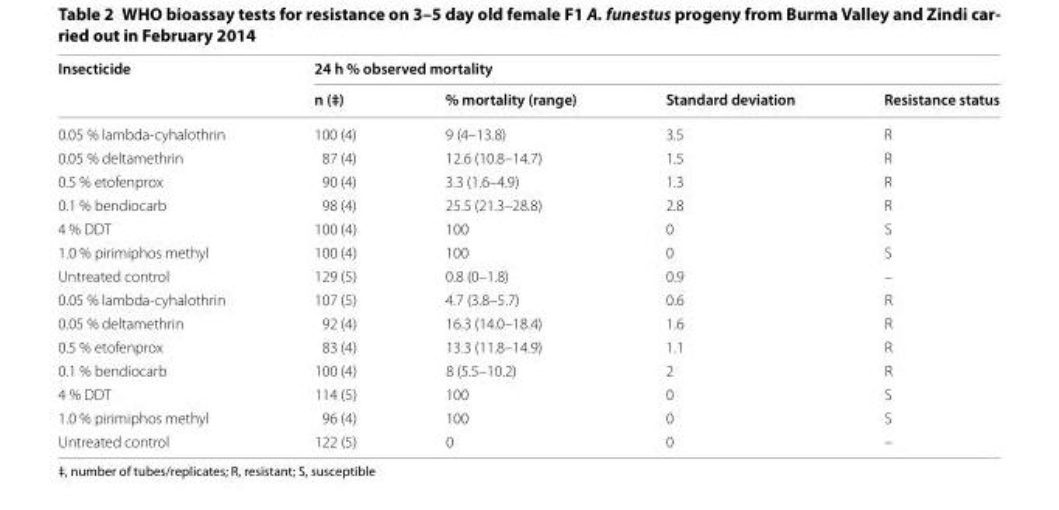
<table><thead><tr><td rowspan="2">Insecticide</td><td colspan="4">24 h % observed mortality</td></tr><tr><td>n (‡)</td><td>% mortality (range)</td><td>Standard deviation</td><td>Resistance status</td></tr></thead><tbody><tr><td>0.05 % lambda-cyhalothrin</td><td>100 (4)</td><td>9 (4–13.8)</td><td>3.5</td><td>R</td></tr><tr><td>0.05 % deltamethrin</td><td>87 (4)</td><td>12.6 (10.8–14.7)</td><td>1.5</td><td>R</td></tr><tr><td>0.5 % etofenprox</td><td>90 (4)</td><td>3.3 (1.6–4.9)</td><td>1.3</td><td>R</td></tr><tr><td>0.1 % bendiocarb</td><td>98 (4)</td><td>25.5 (21.3–28.8)</td><td>2.8</td><td>R</td></tr><tr><td>4 % DDT</td><td>100 (4)</td><td>100</td><td>0</td><td>S</td></tr><tr><td>1.0 % pirimiphos methyl</td><td>100 (4)</td><td>100</td><td>0</td><td>S</td></tr><tr><td>Untreated control</td><td>129 (5)</td><td>0.8 (0–1.8)</td><td>0.9</td><td>–</td></tr><tr><td>0.05 % lambda-cyhalothrin</td><td>107 (5)</td><td>4.7 (3.8–5.7)</td><td>0.6</td><td>R</td></tr><tr><td>0.05 % deltamethrin</td><td>92 (4)</td><td>16.3 (14.0–18.4)</td><td>1.6</td><td>R</td></tr><tr><td>0.5 % etofenprox</td><td>83 (4)</td><td>13.3 (11.8–14.9)</td><td>1.1</td><td>R</td></tr><tr><td>0.1 % bendiocarb</td><td>100 (4)</td><td>8 (5.5–10.2)</td><td>2</td><td>R</td></tr><tr><td>4 % DDT</td><td>114 (5)</td><td>100</td><td>0</td><td>S</td></tr><tr><td>1.0 % pirimiphos methyl</td><td>96 (4)</td><td>100</td><td>0</td><td>S</td></tr><tr><td>Untreated control</td><td>122 (5)</td><td>0</td><td>0</td><td>–</td></tr></tbody></table>